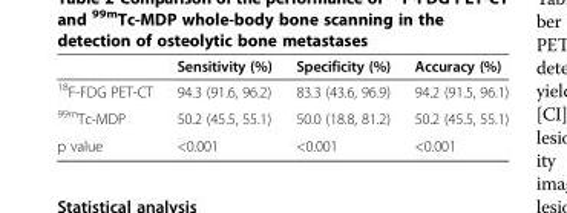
<table><thead><tr><td></td><td>Sensitivity (%)</td><td>Specificity (%)</td><td>Accuracy (%)</td></tr></thead><tbody><tr><td><sup>18</sup>F-FDG PET-CT</td><td>94.3 (91.6, 96.2)</td><td>83.3 (43.6, 96.9)</td><td>94.2 (91.5, 96.1)</td></tr><tr><td><sup>99m</sup>Tc-MDP</td><td>50.2 (45.5, 55.1)</td><td>50.0 (18.8, 81.2)</td><td>50.2 (45.5, 55.1)</td></tr><tr><td>p value</td><td>&lt;0.001</td><td>&lt;0.001</td><td>&lt;0.001</td></tr></tbody></table>